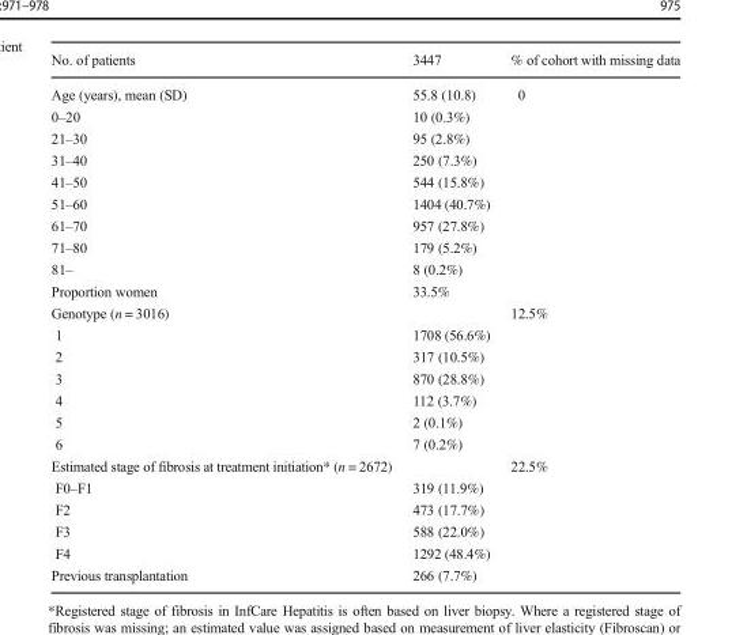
<table><thead><tr><td>No. of patients</td><td>3447</td><td>% of cohort with missing data</td></tr></thead><tbody><tr><td>Age (years), mean (SD)</td><td>55.8 (10.8)</td><td>0</td></tr><tr><td>0–20</td><td>10 (0.3%)</td><td></td></tr><tr><td>21–30</td><td>95 (2.8%)</td><td></td></tr><tr><td>31–40</td><td>250 (7.3%)</td><td></td></tr><tr><td>41–50</td><td>544 (15.8%)</td><td></td></tr><tr><td>51–60</td><td>1404 (40.7%)</td><td></td></tr><tr><td>61–70</td><td>957 (27.8%)</td><td></td></tr><tr><td>71–80</td><td>179 (5.2%)</td><td></td></tr><tr><td>81–</td><td>8 (0.2%)</td><td></td></tr><tr><td>Proportion women</td><td>33.5%</td><td></td></tr><tr><td>Genotype (n = 3016)</td><td></td><td>12.5%</td></tr><tr><td>1</td><td>1708 (56.6%)</td><td></td></tr><tr><td>2</td><td>317 (10.5%)</td><td></td></tr><tr><td>3</td><td>870 (28.8%)</td><td></td></tr><tr><td>4</td><td>112 (3.7%)</td><td></td></tr><tr><td>5</td><td>2 (0.1%)</td><td></td></tr><tr><td>6</td><td>7 (0.2%)</td><td></td></tr><tr><td>Estimated stage of fibrosis at treatment initiation* (n = 2672)</td><td></td><td>22.5%</td></tr><tr><td>F0–F1</td><td>319 (11.9%)</td><td></td></tr><tr><td>F2</td><td>473 (17.7%)</td><td></td></tr><tr><td>F3</td><td>588 (22.0%)</td><td></td></tr><tr><td>F4</td><td>1292 (48.4%)</td><td></td></tr><tr><td>Previous transplantation</td><td>266 (7.7%)</td><td></td></tr></tbody></table>